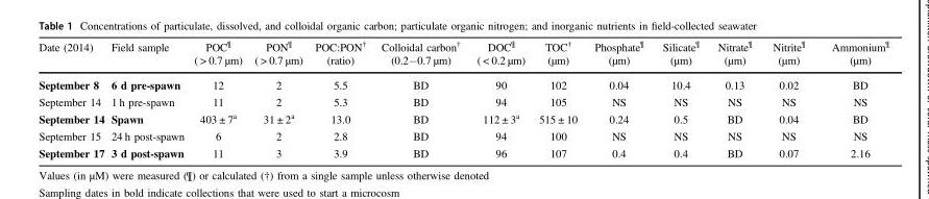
<table><thead><tr><td>Date (2014)</td><td>Field sample</td><td>POC<sup>¶</sup> ( &gt; 0.7 µm)</td><td>PON<sup>¶</sup> ( &gt; 0.7 µm)</td><td>POC:PON<sup>†</sup> (ratio)</td><td>Colloidal carbon<sup>†</sup> (0.2−0.7 µm)</td><td>DOC<sup>¶</sup> ( &lt; 0.2 µm)</td><td>TOC<sup>†</sup> (µm)</td><td>Phosphate<sup>¶</sup> (µm)</td><td>Silicate<sup>¶</sup> (µm)</td><td>Nitrate<sup>¶</sup> (µm)</td><td>Nitrite<sup>¶</sup> (µm)</td><td>Ammonium<sup>¶</sup> (µm)</td></tr></thead><tbody><tr><td>September 8</td><td>6 d pre-spawn</td><td>12</td><td>2</td><td>5.5</td><td>BD</td><td>90</td><td>102</td><td>0.04</td><td>10.4</td><td>0.13</td><td>0.02</td><td>BD</td></tr><tr><td>September 14</td><td>1 h pre-spawn</td><td>11</td><td>2</td><td>5.3</td><td>BD</td><td>94</td><td>105</td><td>NS</td><td>NS</td><td>NS</td><td>NS</td><td>NS</td></tr><tr><td>September 14</td><td>Spawn</td><td>403 ± 7<sup>a</sup></td><td>31 ± 2<sup>a</sup></td><td>13.0</td><td>BD</td><td>112 ± 3<sup>a</sup></td><td>515 ± 10</td><td>0.24</td><td>0.5</td><td>BD</td><td>0.04</td><td>BD</td></tr><tr><td>September 15</td><td>24 h post-spawn</td><td>6</td><td>2</td><td>2.8</td><td>BD</td><td>94</td><td>100</td><td>NS</td><td>NS</td><td>NS</td><td>NS</td><td>NS</td></tr><tr><td>September 17</td><td>3 d post-spawn</td><td>11</td><td>3</td><td>3.9</td><td>BD</td><td>96</td><td>107</td><td>0.4</td><td>0.4</td><td>BD</td><td>0.07</td><td>2.16</td></tr></tbody></table>